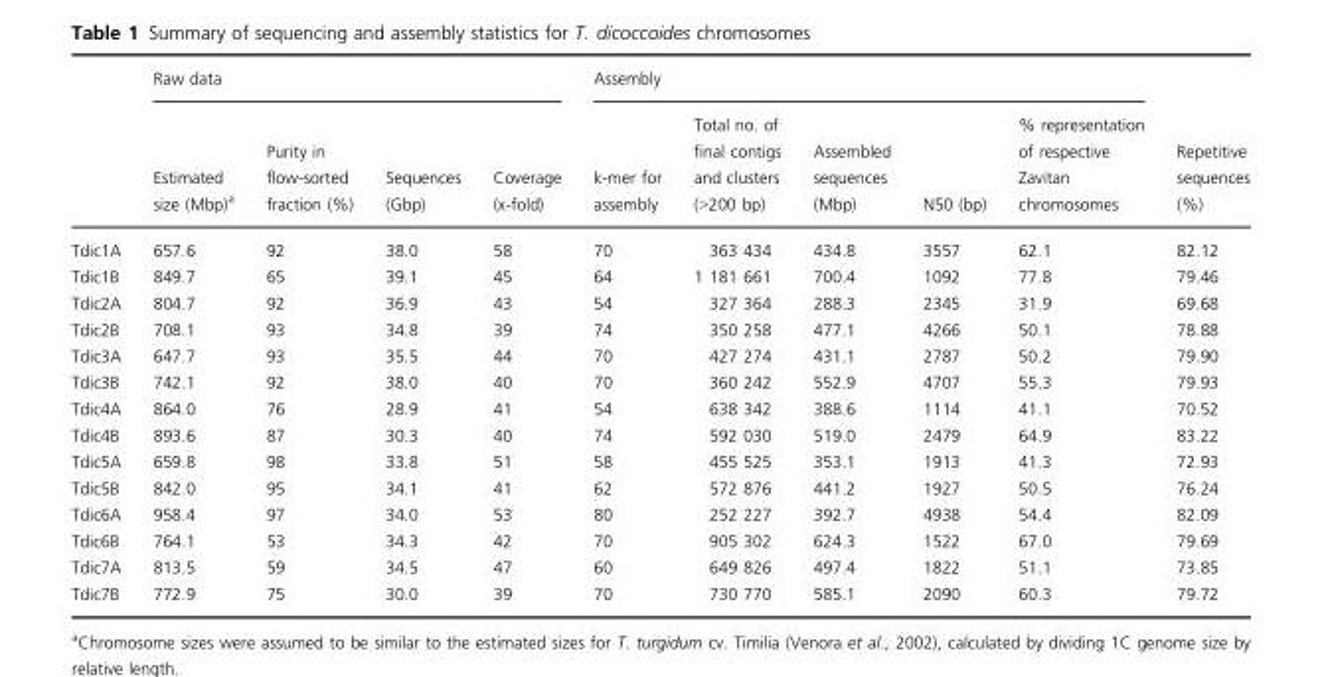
<table><thead><tr><td rowspan="2"></td><td colspan="4">Raw data</td><td colspan="5">Assembly</td><td rowspan="2">Repetitive sequences (%)</td></tr><tr><td>Estimated size (Mbp)<sup>a</sup></td><td>Purity in flow-sorted fraction (%)</td><td>Sequences (Gbp)</td><td>Coverage (x-fold)</td><td>k-mer for assembly</td><td>Total no. of final contigs and clusters (&gt;200 bp)</td><td>Assembled sequences (Mbp)</td><td>N50 (bp)</td><td>% representation of respective Zavitan chromosomes</td></tr></thead><tbody><tr><td>Tdic1A</td><td>657.6</td><td>92</td><td>38.0</td><td>58</td><td>70</td><td>363 434</td><td>434.8</td><td>3557</td><td>62.1</td><td>82.12</td></tr><tr><td>Tdic1B</td><td>849.7</td><td>65</td><td>39.1</td><td>45</td><td>64</td><td>1 181 661</td><td>700.4</td><td>1092</td><td>77.8</td><td>79.46</td></tr><tr><td>Tdic2A</td><td>804.7</td><td>92</td><td>36.9</td><td>43</td><td>54</td><td>327 364</td><td>288.3</td><td>2345</td><td>31.9</td><td>69.68</td></tr><tr><td>Tdic2B</td><td>708.1</td><td>93</td><td>34.8</td><td>39</td><td>74</td><td>350 258</td><td>477.1</td><td>4266</td><td>50.1</td><td>78.88</td></tr><tr><td>Tdic3A</td><td>647.7</td><td>93</td><td>35.5</td><td>44</td><td>70</td><td>427 274</td><td>431.1</td><td>2787</td><td>50.2</td><td>79.90</td></tr><tr><td>Tdic3B</td><td>742.1</td><td>92</td><td>38.0</td><td>40</td><td>70</td><td>360 242</td><td>552.9</td><td>4707</td><td>55.3</td><td>79.93</td></tr><tr><td>Tdic4A</td><td>864.0</td><td>76</td><td>28.9</td><td>41</td><td>54</td><td>638 342</td><td>388.6</td><td>1114</td><td>41.1</td><td>70.52</td></tr><tr><td>Tdic4B</td><td>893.6</td><td>87</td><td>30.3</td><td>40</td><td>74</td><td>592 030</td><td>519.0</td><td>2479</td><td>64.9</td><td>83.22</td></tr><tr><td>Tdic5A</td><td>659.8</td><td>98</td><td>33.8</td><td>51</td><td>58</td><td>455 525</td><td>353.1</td><td>1913</td><td>41.3</td><td>72.93</td></tr><tr><td>Tdic5B</td><td>842.0</td><td>95</td><td>34.1</td><td>41</td><td>62</td><td>572 876</td><td>441.2</td><td>1927</td><td>50.5</td><td>76.24</td></tr><tr><td>Tdic6A</td><td>958.4</td><td>97</td><td>34.0</td><td>53</td><td>80</td><td>252 227</td><td>392.7</td><td>4938</td><td>54.4</td><td>82.09</td></tr><tr><td>Tdic6B</td><td>764.1</td><td>53</td><td>34.3</td><td>42</td><td>70</td><td>905 302</td><td>624.3</td><td>1522</td><td>67.0</td><td>79.69</td></tr><tr><td>Tdic7A</td><td>813.5</td><td>59</td><td>34.5</td><td>47</td><td>60</td><td>649 826</td><td>497.4</td><td>1822</td><td>51.1</td><td>73.85</td></tr><tr><td>Tdic7B</td><td>772.9</td><td>75</td><td>30.0</td><td>39</td><td>70</td><td>730 770</td><td>585.1</td><td>2090</td><td>60.3</td><td>79.72</td></tr></tbody></table>